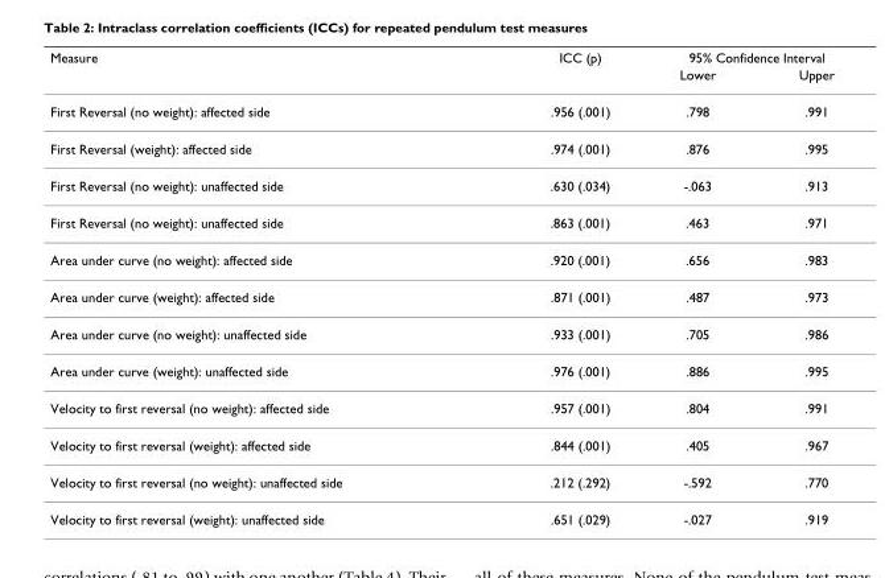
<table><thead><tr><td rowspan="2">Measure</td><td rowspan="2">ICC (p)</td><td colspan="2">95% Confidence Interval</td></tr><tr><td>Lower</td><td>Upper</td></tr></thead><tbody><tr><td>First Reversal (no weight): affected side</td><td>.956 (.001)</td><td>.798</td><td>.991</td></tr><tr><td>First Reversal (weight): affected side</td><td>.974 (.001)</td><td>.876</td><td>.995</td></tr><tr><td>First Reversal (no weight): unaffected side</td><td>.630 (.034)</td><td>-.063</td><td>.913</td></tr><tr><td>First Reversal (no weight): unaffected side</td><td>.863 (.001)</td><td>.463</td><td>.971</td></tr><tr><td>Area under curve (no weight): affected side</td><td>.920 (.001)</td><td>.656</td><td>.983</td></tr><tr><td>Area under curve (weight): affected side</td><td>.871 (.001)</td><td>.487</td><td>.973</td></tr><tr><td>Area under curve (no weight): unaffected side</td><td>.933 (.001)</td><td>.705</td><td>.986</td></tr><tr><td>Area under curve (weight): unaffected side</td><td>.976 (.001)</td><td>.886</td><td>.995</td></tr><tr><td>Velocity to first reversal (no weight): affected side</td><td>.957 (.001)</td><td>.804</td><td>.991</td></tr><tr><td>Velocity to first reversal (weight): affected side</td><td>.844 (.001)</td><td>.405</td><td>.967</td></tr><tr><td>Velocity to first reversal (no weight): unaffected side</td><td>.212 (.292)</td><td>-.592</td><td>.770</td></tr><tr><td>Velocity to first reversal (weight): unaffected side</td><td>.651 (.029)</td><td>-.027</td><td>.919</td></tr></tbody></table>